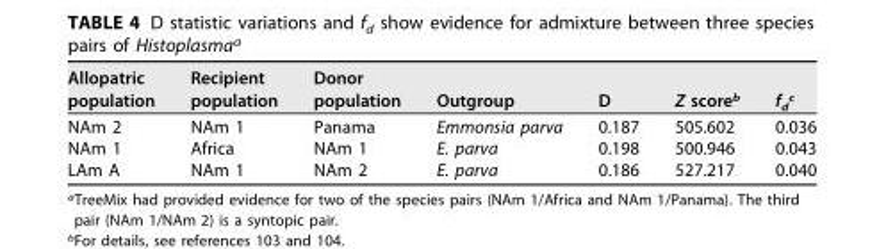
<table><thead><tr><td>Allopatric population</td><td>Recipient population</td><td>Donor population</td><td>Outgroup</td><td>D</td><td>Z score<sup>b</sup></td><td>f<sub>d</sub><sup>c</sup></td></tr></thead><tbody><tr><td>NAm 2</td><td>NAm 1</td><td>Panama</td><td>Emmonsia parva</td><td>0.187</td><td>505.602</td><td>0.036</td></tr><tr><td>NAm 1</td><td>Africa</td><td>NAm 1</td><td>E. parva</td><td>0.198</td><td>500.946</td><td>0.043</td></tr><tr><td>LAm A</td><td>NAm 1</td><td>NAm 2</td><td>E. parva</td><td>0.186</td><td>527.217</td><td>0.040</td></tr></tbody></table>